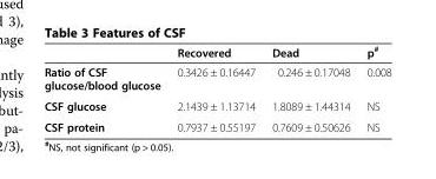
<table><thead><tr><td></td><td>Recovered</td><td>Dead</td><td>p<sup>#</sup></td></tr></thead><tbody><tr><td>Ratio of CSF glucose/blood glucose</td><td>0.3426 ± 0.16447</td><td>0.246 ± 0.17048</td><td>0.008</td></tr><tr><td>CSF glucose</td><td>2.1439 ± 1.13714</td><td>1.8089 ± 1.44314</td><td>NS</td></tr><tr><td>CSF protein</td><td>0.7937 ± 0.55197</td><td>0.7609 ± 0.50626</td><td>NS</td></tr></tbody></table>